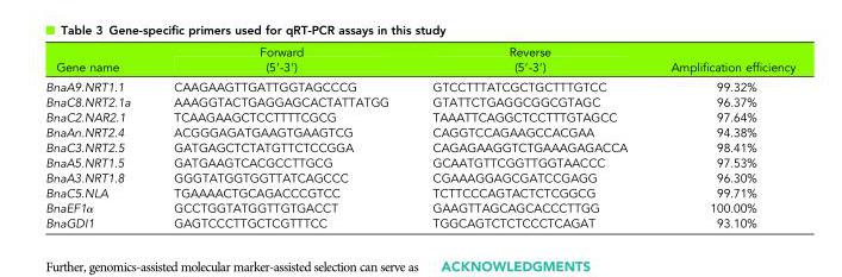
<table><thead><tr><td rowspan="2">Gene name</td><td rowspan="2">Forward (5′-3′)</td><td rowspan="2">Reverse (5′-3′)</td><td rowspan="2">Amplification efficiency</td></tr><tr></tr></thead><tbody><tr><td>BnaA9.NRT1.1</td><td>CAAGAAGTTGATTGGTAGCCCG</td><td>GTCCTTTATCGCTGCTTTGTCC</td><td>99.32%</td></tr><tr><td>BnaC8.NRT2.1a</td><td>AAAGGTACTGAGGAGCACTATTATGG</td><td>GTATTCTGAGGCGGCGTAGC</td><td>96.37%</td></tr><tr><td>BnaC2.NAR2.1</td><td>TCAAGAAGCTCCTTTTCGCG</td><td>TAAATTCAGGCTCCTTTGTAGCC</td><td>97.64%</td></tr><tr><td>BnaAn.NRT2.4</td><td>ACGGGAGATGAAGTGAAGTCG</td><td>CAGGTCCAGAAGCCACGAA</td><td>94.38%</td></tr><tr><td>BnaC3.NRT2.5</td><td>GATGAGCTCTATGTTCTCCGGA</td><td>CAGAGAAGGTCTGAAAGAGACCA</td><td>98.41%</td></tr><tr><td>BnaA5.NRT1.5</td><td>GATGAAGTCACGCCTTGCG</td><td>GCAATGTTCGGTTGGTAACCC</td><td>97.53%</td></tr><tr><td>BnaA3.NRT1.8</td><td>GGGTATGGTGGTTATCAGCCC</td><td>CGAAAGGAGCGATCCGAGG</td><td>96.30%</td></tr><tr><td>BnaC5.NLA</td><td>TGAAAACTGCAGACCCGTCC</td><td>TCTTCCCAGTACTCTCGGCG</td><td>99.71%</td></tr><tr><td>BnaEF1α</td><td>GCCTGGTATGGTTGTGACCT</td><td>GAAGTTAGCAGCACCCTTGG</td><td>100.00%</td></tr><tr><td>BnaGDI1</td><td>GAGTCCCTTGCTCGTTTCC</td><td>TGGCAGTCTCTCCCTCAGAT</td><td>93.10%</td></tr></tbody></table>